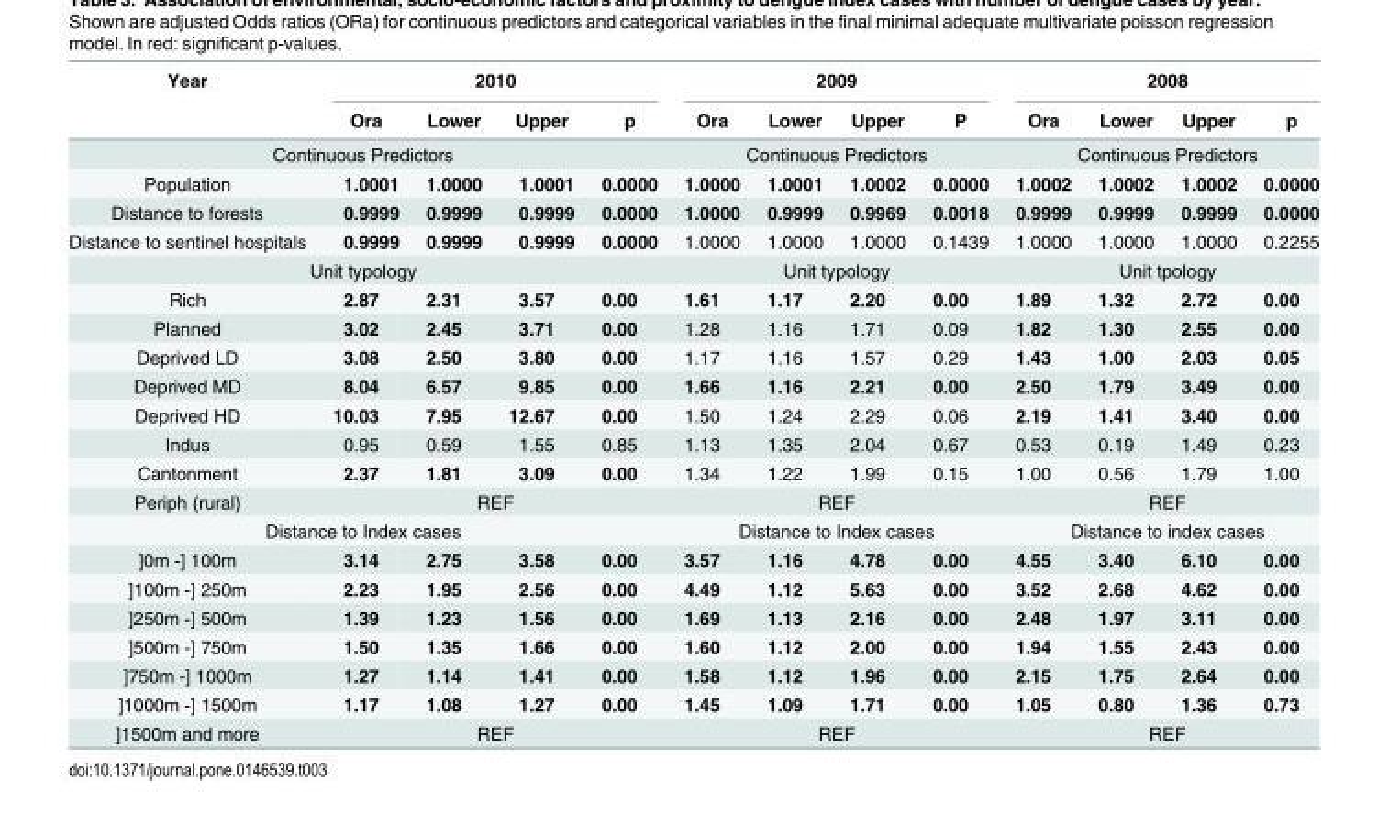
<table><thead><tr><td rowspan="2">Year</td><td colspan="4">2010</td><td colspan="4">2009</td><td colspan="4">2008</td></tr><tr><td>Ora</td><td>Lower</td><td>Upper</td><td>p</td><td>Ora</td><td>Lower</td><td>Upper</td><td>P</td><td>Ora</td><td>Lower</td><td>Upper</td><td>p</td></tr></thead><tbody><tr><td colspan="5">Continuous Predictors</td><td colspan="4">Continuous Predictors</td><td colspan="4">Continuous Predictors</td></tr><tr><td>Population</td><td>1.0001</td><td>1.0000</td><td>1.0001</td><td>0.0000</td><td>1.0000</td><td>1.0001</td><td>1.0002</td><td>0.0000</td><td>1.0002</td><td>1.0002</td><td>1.0002</td><td>0.0000</td></tr><tr><td>Distance to forests</td><td>0.9999</td><td>0.9999</td><td>0.9999</td><td>0.0000</td><td>1.0000</td><td>0.9999</td><td>0.9969</td><td>0.0018</td><td>0.9999</td><td>0.9999</td><td>0.9999</td><td>0.0000</td></tr><tr><td>Distance to sentinel hospitals</td><td>0.9999</td><td>0.9999</td><td>0.9999</td><td>0.0000</td><td>1.0000</td><td>1.0000</td><td>1.0000</td><td>0.1439</td><td>1.0000</td><td>1.0000</td><td>1.0000</td><td>0.2255</td></tr><tr><td colspan="5">Unit typology</td><td colspan="4">Unit typology</td><td colspan="4">Unit tpology</td></tr><tr><td>Rich</td><td>2.87</td><td>2.31</td><td>3.57</td><td>0.00</td><td>1.61</td><td>1.17</td><td>2.20</td><td>0.00</td><td>1.89</td><td>1.32</td><td>2.72</td><td>0.00</td></tr><tr><td>Planned</td><td>3.02</td><td>2.45</td><td>3.71</td><td>0.00</td><td>1.28</td><td>1.16</td><td>1.71</td><td>0.09</td><td>1.82</td><td>1.30</td><td>2.55</td><td>0.00</td></tr><tr><td>Deprived LD</td><td>3.08</td><td>2.50</td><td>3.80</td><td>0.00</td><td>1.17</td><td>1.16</td><td>1.57</td><td>0.29</td><td>1.43</td><td>1.00</td><td>2.03</td><td>0.05</td></tr><tr><td>Deprived MD</td><td>8.04</td><td>6.57</td><td>9.85</td><td>0.00</td><td>1.66</td><td>1.16</td><td>2.21</td><td>0.00</td><td>2.50</td><td>1.79</td><td>3.49</td><td>0.00</td></tr><tr><td>Deprived HD</td><td>10.03</td><td>7.95</td><td>12.67</td><td>0.00</td><td>1.50</td><td>1.24</td><td>2.29</td><td>0.06</td><td>2.19</td><td>1.41</td><td>3.40</td><td>0.00</td></tr><tr><td>Indus</td><td>0.95</td><td>0.59</td><td>1.55</td><td>0.85</td><td>1.13</td><td>1.35</td><td>2.04</td><td>0.67</td><td>0.53</td><td>0.19</td><td>1.49</td><td>0.23</td></tr><tr><td>Cantonment</td><td>2.37</td><td>1.81</td><td>3.09</td><td>0.00</td><td>1.34</td><td>1.22</td><td>1.99</td><td>0.15</td><td>1.00</td><td>0.56</td><td>1.79</td><td>1.00</td></tr><tr><td>Periph (rural)</td><td colspan="4">REF</td><td colspan="4">REF</td><td colspan="4">REF</td></tr><tr><td colspan="5">Distance to Index cases</td><td colspan="4">Distance to Index cases</td><td colspan="4">Distance to index cases</td></tr><tr><td>]0m -] 100m</td><td>3.14</td><td>2.75</td><td>3.58</td><td>0.00</td><td>3.57</td><td>1.16</td><td>4.78</td><td>0.00</td><td>4.55</td><td>3.40</td><td>6.10</td><td>0.00</td></tr><tr><td>]100m -] 250m</td><td>2.23</td><td>1.95</td><td>2.56</td><td>0.00</td><td>4.49</td><td>1.12</td><td>5.63</td><td>0.00</td><td>3.52</td><td>2.68</td><td>4.62</td><td>0.00</td></tr><tr><td>]250m -] 500m</td><td>1.39</td><td>1.23</td><td>1.56</td><td>0.00</td><td>1.69</td><td>1.13</td><td>2.16</td><td>0.00</td><td>2.48</td><td>1.97</td><td>3.11</td><td>0.00</td></tr><tr><td>]500m -] 750m</td><td>1.50</td><td>1.35</td><td>1.66</td><td>0.00</td><td>1.60</td><td>1.12</td><td>2.00</td><td>0.00</td><td>1.94</td><td>1.55</td><td>2.43</td><td>0.00</td></tr><tr><td>]750m -] 1000m</td><td>1.27</td><td>1.14</td><td>1.41</td><td>0.00</td><td>1.58</td><td>1.12</td><td>1.96</td><td>0.00</td><td>2.15</td><td>1.75</td><td>2.64</td><td>0.00</td></tr><tr><td>]1000m -] 1500m</td><td>1.17</td><td>1.08</td><td>1.27</td><td>0.00</td><td>1.45</td><td>1.09</td><td>1.71</td><td>0.00</td><td>1.05</td><td>0.80</td><td>1.36</td><td>0.73</td></tr><tr><td>]1500m and more</td><td colspan="4">REF</td><td colspan="4">REF</td><td colspan="4">REF</td></tr></tbody></table>